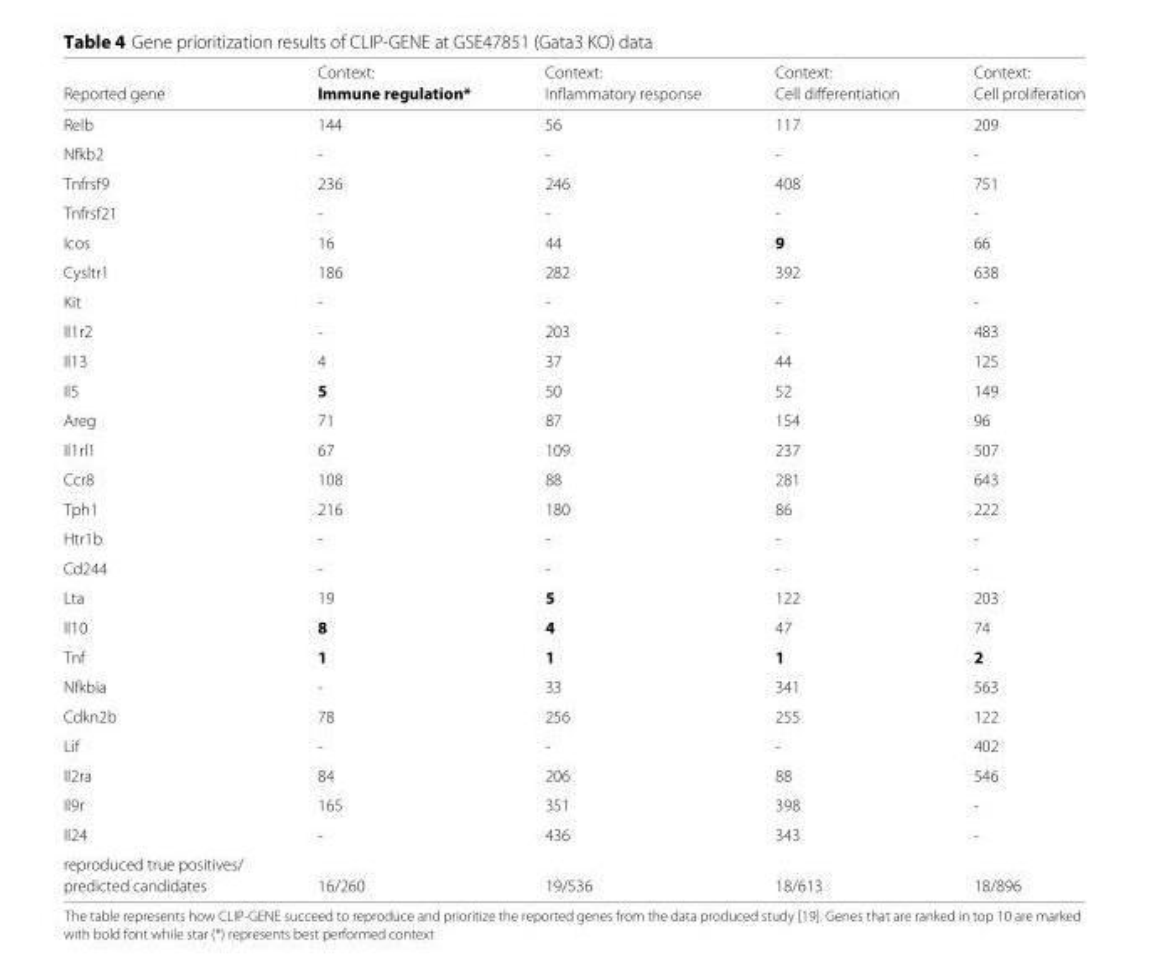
<table><thead><tr><td rowspan="2">Reported gene</td><td rowspan="2">Context: Immune regulation*</td><td rowspan="2">Context: Inflammatory response</td><td rowspan="2">Context: Cell differentiation</td><td rowspan="2">Context: Cell proliferation</td></tr><tr></tr></thead><tbody><tr><td>Relb</td><td>144</td><td>56</td><td>117</td><td>209</td></tr><tr><td>Nfkb2</td><td>-</td><td>-</td><td>-</td><td>-</td></tr><tr><td>Tnfrsf9</td><td>236</td><td>246</td><td>408</td><td>751</td></tr><tr><td>Tnfrsf21</td><td>-</td><td>-</td><td>-</td><td>-</td></tr><tr><td>Icos</td><td>16</td><td>44</td><td>9</td><td>66</td></tr><tr><td>Cysltr1</td><td>186</td><td>282</td><td>392</td><td>638</td></tr><tr><td>Kit</td><td>-</td><td>-</td><td>-</td><td>-</td></tr><tr><td>Il1r2</td><td>-</td><td>203</td><td>-</td><td>483</td></tr><tr><td>Il13</td><td>4</td><td>37</td><td>44</td><td>125</td></tr><tr><td>Il5</td><td>5</td><td>50</td><td>52</td><td>149</td></tr><tr><td>Areg</td><td>71</td><td>87</td><td>154</td><td>96</td></tr><tr><td>Il1rl1</td><td>67</td><td>109</td><td>237</td><td>507</td></tr><tr><td>Ccr8</td><td>108</td><td>88</td><td>281</td><td>643</td></tr><tr><td>Tph1</td><td>216</td><td>180</td><td>86</td><td>222</td></tr><tr><td>Htr1b</td><td>-</td><td>-</td><td>-</td><td>-</td></tr><tr><td>Cd244</td><td>-</td><td>-</td><td>-</td><td>-</td></tr><tr><td>Lta</td><td>19</td><td>5</td><td>122</td><td>203</td></tr><tr><td>Il10</td><td>8</td><td>4</td><td>47</td><td>74</td></tr><tr><td>Tnf</td><td>1</td><td>1</td><td>1</td><td>2</td></tr><tr><td>Nfkbia</td><td>-</td><td>33</td><td>341</td><td>563</td></tr><tr><td>Cdkn2b</td><td>78</td><td>256</td><td>255</td><td>122</td></tr><tr><td>Lif</td><td>-</td><td>-</td><td>-</td><td>402</td></tr><tr><td>Il2ra</td><td>84</td><td>206</td><td>88</td><td>546</td></tr><tr><td>Il9r</td><td>165</td><td>351</td><td>398</td><td>-</td></tr><tr><td>Il24</td><td>-</td><td>436</td><td>343</td><td>-</td></tr><tr><td colspan="5">reproduced true positives/</td></tr><tr><td>predicted candidates</td><td>16/260</td><td>19/536</td><td>18/613</td><td>18/896</td></tr></tbody></table>